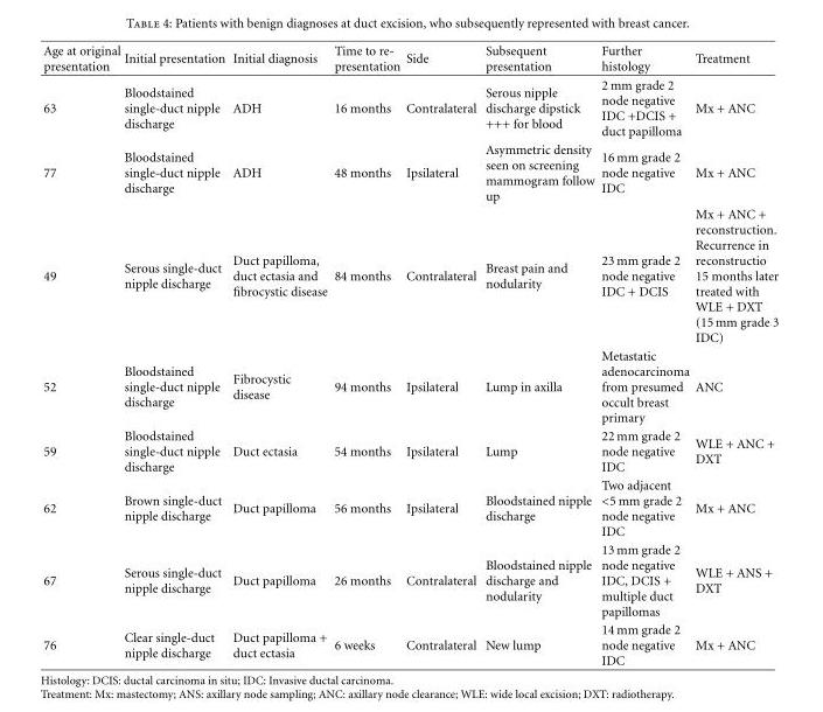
<table><thead><tr><td>Age at original presentation</td><td>Initial presentation</td><td>Initial diagnosis</td><td>Time to re- presentation</td><td>Side</td><td>Subsequent presentation</td><td>Further histology</td><td>Treatment</td></tr></thead><tbody><tr><td>63</td><td>Bloodstained single-duct nipple discharge</td><td>ADH</td><td>16 months</td><td>Contralateral</td><td>Serous nipple discharge dipstick +++ for blood</td><td>2 mm grade 2 node negative IDC +DCIS + duct papilloma</td><td>Mx + ANC</td></tr><tr><td>77</td><td>Bloodstained single-duct nipple discharge</td><td>ADH</td><td>48 months</td><td>Ipsilateral</td><td>Asymmetric density seen on screening mammogram follow up</td><td>16 mm grade 2 node negative IDC</td><td>Mx + ANC</td></tr><tr><td>49</td><td>Serous single-duct nipple discharge</td><td>Duct papilloma, duct ectasia and fibrocystic disease</td><td>84 months</td><td>Contralateral</td><td>Breast pain and nodularity</td><td>23 mm grade 2 node negative IDC + DCIS</td><td>Mx + ANC + reconstruction. Recurrence in reconstructio 15 months later treated with WLE + DXT (15 mm grade 3 IDC)</td></tr><tr><td>52</td><td>Bloodstained single-duct nipple discharge</td><td>Fibrocystic disease</td><td>94 months</td><td>Ipsilateral</td><td>Lump in axilla</td><td>Metastatic adenocarcinoma from presumed occult breast primary</td><td>ANC</td></tr><tr><td>59</td><td>Bloodstained single-duct nipple discharge</td><td>Duct ectasia</td><td>54 months</td><td>Ipsilateral</td><td>Lump</td><td>22 mm grade 2 node negative IDC</td><td>WLE + ANC + DXT</td></tr><tr><td>62</td><td>Brown single-duct nipple discharge</td><td>Duct papilloma</td><td>56 months</td><td>Ipsilateral</td><td>Bloodstained nipple discharge</td><td>Two adjacent &lt;5 mm grade 2 node negative IDC</td><td>Mx + ANC</td></tr><tr><td>67</td><td>Serous single-duct nipple discharge</td><td>Duct papilloma</td><td>26 months</td><td>Contralateral</td><td>Bloodstained nipple discharge and nodularity</td><td>13 mm grade 2 node negative IDC, DCIS + multiple duct papillomas</td><td>WLE + ANS + DXT</td></tr><tr><td>76</td><td>Clear single-duct nipple discharge</td><td>Duct papilloma + duct ectasia</td><td>6 weeks</td><td>Contralateral</td><td>New lump</td><td>14 mm grade 2 node negative IDC</td><td>Mx + ANC</td></tr></tbody></table>